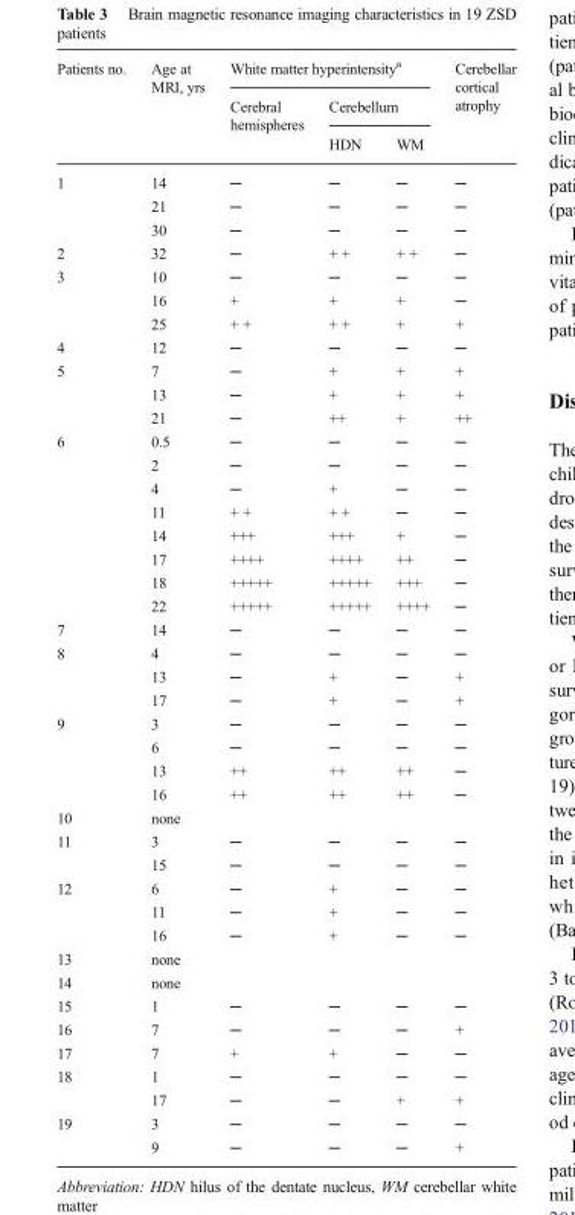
<table><thead><tr><td rowspan="3">Patients no.</td><td rowspan="3">Age at MRI, yrs</td><td colspan="3">White matter hyperintensity<sup>a</sup></td><td rowspan="3">Cerebellar cortical atrophy</td></tr><tr><td rowspan="2">Cerebral hemispheres</td><td colspan="2">Cerebellum</td></tr><tr><td>HDN</td><td>WM</td></tr></thead><tbody><tr><td rowspan="3">1</td><td>14</td><td>─</td><td>─</td><td>─</td><td>─</td></tr><tr><td>21</td><td>─</td><td>─</td><td>─</td><td>─</td></tr><tr><td>30</td><td>─</td><td>─</td><td>─</td><td>─</td></tr><tr><td>2</td><td>32</td><td>─</td><td>+ +</td><td>+ +</td><td>─</td></tr><tr><td rowspan="3">3</td><td>10</td><td>─</td><td>─</td><td>─</td><td>─</td></tr><tr><td>16</td><td>+</td><td>+</td><td>+</td><td>─</td></tr><tr><td>25</td><td>+ +</td><td>+ +</td><td>+</td><td>+</td></tr><tr><td>4</td><td>12</td><td>─</td><td>─</td><td>─</td><td>─</td></tr><tr><td rowspan="3">5</td><td>7</td><td>─</td><td>+</td><td>+</td><td>+</td></tr><tr><td>13</td><td>─</td><td>+</td><td>+</td><td>+</td></tr><tr><td>21</td><td>─</td><td>++</td><td>+</td><td>++</td></tr><tr><td rowspan="8">6</td><td>0.5</td><td>─</td><td>─</td><td>─</td><td>─</td></tr><tr><td>2</td><td>─</td><td>─</td><td>─</td><td>─</td></tr><tr><td>4</td><td>─</td><td>+</td><td>─</td><td>─</td></tr><tr><td>11</td><td>+ +</td><td>+ +</td><td>─</td><td>─</td></tr><tr><td>14</td><td>+++</td><td>+++</td><td>+</td><td>─</td></tr><tr><td>17</td><td>++++</td><td>++++</td><td>++</td><td>─</td></tr><tr><td>18</td><td>+++++</td><td>+++++</td><td>+++</td><td>─</td></tr><tr><td>22</td><td>+++++</td><td>+++++</td><td>++++</td><td>─</td></tr><tr><td>7</td><td>14</td><td>─</td><td>─</td><td>─</td><td>─</td></tr><tr><td rowspan="3">8</td><td>4</td><td>─</td><td>─</td><td>─</td><td>─</td></tr><tr><td>13</td><td>─</td><td>+</td><td>─</td><td>+</td></tr><tr><td>17</td><td>─</td><td>+</td><td>─</td><td>+</td></tr><tr><td rowspan="4">9</td><td>3</td><td>─</td><td>─</td><td>─</td><td>─</td></tr><tr><td>6</td><td>─</td><td>─</td><td>─</td><td>─</td></tr><tr><td>13</td><td>++</td><td>++</td><td>++</td><td>─</td></tr><tr><td>16</td><td>++</td><td>++</td><td>++</td><td>─</td></tr><tr><td>10</td><td>none</td><td></td><td></td><td></td><td></td></tr><tr><td rowspan="2">11</td><td>3</td><td>─</td><td>─</td><td>─</td><td>─</td></tr><tr><td>15</td><td>─</td><td>─</td><td>─</td><td>─</td></tr><tr><td rowspan="3">12</td><td>6</td><td>─</td><td>+</td><td>─</td><td>─</td></tr><tr><td>11</td><td>─</td><td>+</td><td>─</td><td>─</td></tr><tr><td>16</td><td>─</td><td>+</td><td>─</td><td>─</td></tr><tr><td>13</td><td>none</td><td></td><td></td><td></td><td></td></tr><tr><td>14</td><td>none</td><td></td><td></td><td></td><td></td></tr><tr><td>15</td><td>1</td><td>─</td><td>─</td><td>─</td><td>─</td></tr><tr><td>16</td><td>7</td><td>─</td><td>─</td><td>─</td><td>+</td></tr><tr><td>17</td><td>7</td><td>+</td><td>+</td><td>─</td><td>─</td></tr><tr><td rowspan="2">18</td><td>1</td><td>─</td><td>─</td><td>─</td><td>─</td></tr><tr><td>17</td><td>─</td><td>─</td><td>+</td><td>+</td></tr><tr><td rowspan="2">19</td><td>3</td><td>─</td><td>─</td><td>─</td><td>─</td></tr><tr><td>9</td><td>─</td><td>─</td><td>─</td><td>+</td></tr></tbody></table>